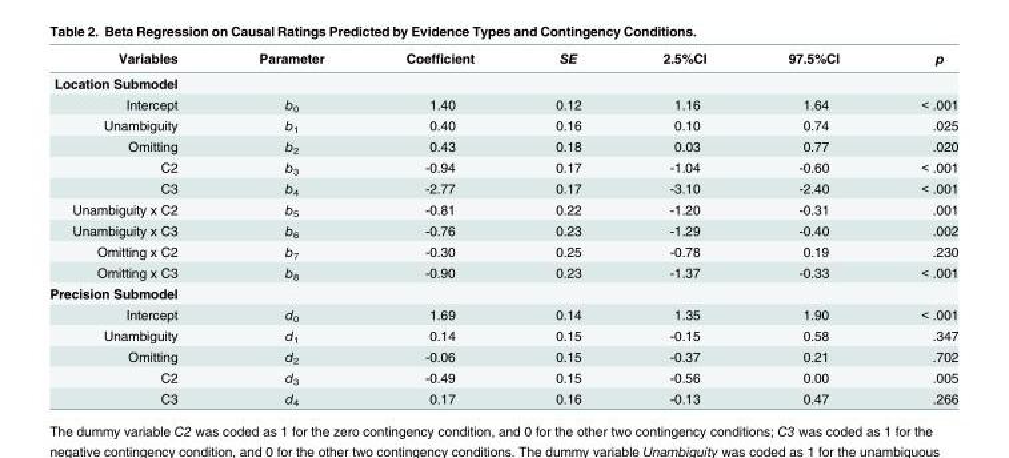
<table><thead><tr><td>Variables</td><td>Parameter</td><td>Coefficient</td><td>SE</td><td>2.5%CI</td><td>97.5%CI</td><td>p</td></tr></thead><tbody><tr><td colspan="7">Location Submodel</td></tr><tr><td>Intercept</td><td>b<sub>0</sub></td><td>1.40</td><td>0.12</td><td>1.16</td><td>1.64</td><td>&lt; .001</td></tr><tr><td>Unambiguity</td><td>b<sub>1</sub></td><td>0.40</td><td>0.16</td><td>0.10</td><td>0.74</td><td>.025</td></tr><tr><td>Omitting</td><td>b<sub>2</sub></td><td>0.43</td><td>0.18</td><td>0.03</td><td>0.77</td><td>.020</td></tr><tr><td>C2</td><td>b<sub>3</sub></td><td>-0.94</td><td>0.17</td><td>-1.04</td><td>-0.60</td><td>&lt; .001</td></tr><tr><td>C3</td><td>b<sub>4</sub></td><td>-2.77</td><td>0.17</td><td>-3.10</td><td>-2.40</td><td>&lt; .001</td></tr><tr><td>Unambiguity x C2</td><td>b<sub>5</sub></td><td>-0.81</td><td>0.22</td><td>-1.20</td><td>-0.31</td><td>.001</td></tr><tr><td>Unambiguity x C3</td><td>b<sub>6</sub></td><td>-0.76</td><td>0.23</td><td>-1.29</td><td>-0.40</td><td>.002</td></tr><tr><td>Omitting x C2</td><td>b<sub>7</sub></td><td>-0.30</td><td>0.25</td><td>-0.78</td><td>0.19</td><td>.230</td></tr><tr><td>Omitting x C3</td><td>b<sub>8</sub></td><td>-0.90</td><td>0.23</td><td>-1.37</td><td>-0.33</td><td>&lt; .001</td></tr><tr><td colspan="7">Precision Submodel</td></tr><tr><td>Intercept</td><td>d<sub>0</sub></td><td>1.69</td><td>0.14</td><td>1.35</td><td>1.90</td><td>&lt; .001</td></tr><tr><td>Unambiguity</td><td>d<sub>1</sub></td><td>0.14</td><td>0.15</td><td>-0.15</td><td>0.58</td><td>.347</td></tr><tr><td>Omitting</td><td>d<sub>2</sub></td><td>-0.06</td><td>0.15</td><td>-0.37</td><td>0.21</td><td>.702</td></tr><tr><td>C2</td><td>d<sub>3</sub></td><td>-0.49</td><td>0.15</td><td>-0.56</td><td>0.00</td><td>.005</td></tr><tr><td>C3</td><td>d<sub>4</sub></td><td>0.17</td><td>0.16</td><td>-0.13</td><td>0.47</td><td>.266</td></tr></tbody></table>